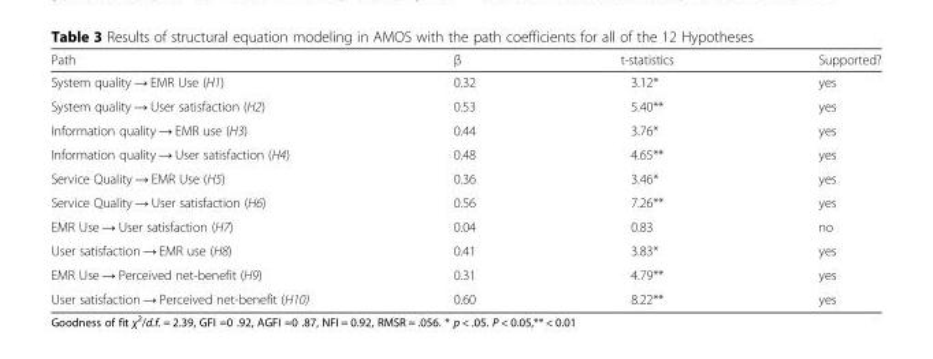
<table><thead><tr><td>Path</td><td>β</td><td>t-statistics</td><td>Supported?</td></tr></thead><tbody><tr><td>System quality → EMR Use (H1)</td><td>0.32</td><td>3.12*</td><td>yes</td></tr><tr><td>System quality → User satisfaction (H2)</td><td>0.53</td><td>5.40**</td><td>yes</td></tr><tr><td>Information quality → EMR use (H3)</td><td>0.44</td><td>3.76*</td><td>yes</td></tr><tr><td>Information quality → User satisfaction (H4)</td><td>0.48</td><td>4.65**</td><td>yes</td></tr><tr><td>Service Quality → EMR Use (H5)</td><td>0.36</td><td>3.46*</td><td>yes</td></tr><tr><td>Service Quality → User satisfaction (H6)</td><td>0.56</td><td>7.26**</td><td>yes</td></tr><tr><td>EMR Use → User satisfaction (H7)</td><td>0.04</td><td>0.83</td><td>no</td></tr><tr><td>User satisfaction → EMR use (H8)</td><td>0.41</td><td>3.83*</td><td>yes</td></tr><tr><td>EMR Use → Perceived net-benefit (H9)</td><td>0.31</td><td>4.79**</td><td>yes</td></tr><tr><td>User satisfaction → Perceived net-benefit (H10)</td><td>0.60</td><td>8.22**</td><td>yes</td></tr></tbody></table>